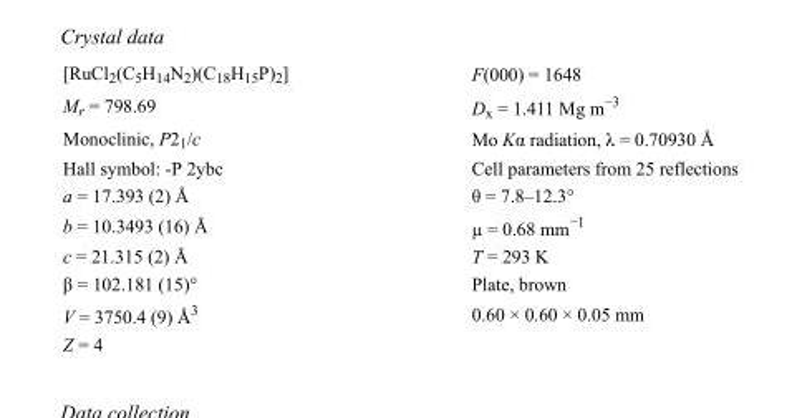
<table><tbody><tr><td>[RuCl<sub>2</sub>(C<sub>5</sub>H<sub>14</sub>N<sub>2</sub>)(C<sub>18</sub>H<sub>15</sub>P)<sub>2</sub>]</td><td>F(000) = 1648</td></tr><tr><td>M<sub>r</sub> = 798.69</td><td>D<sub>x</sub> = 1.411 Mg m<sup>−3</sup></td></tr><tr><td>Monoclinic, P2<sub>1</sub>/c</td><td>Mo Kα radiation, λ = 0.70930 Å</td></tr><tr><td>Hall symbol: -P 2ybc</td><td>Cell parameters from 25 reflections</td></tr><tr><td>a = 17.393 (2) Å</td><td>θ = 7.8–12.3°</td></tr><tr><td>b = 10.3493 (16) Å</td><td>µ = 0.68 mm<sup>−1</sup></td></tr><tr><td>c = 21.315 (2) Å</td><td>T = 293 K</td></tr><tr><td>β = 102.181 (15)°</td><td>Plate, brown</td></tr><tr><td>V = 3750.4 (9) Å<sup>3</sup></td><td>0.60 × 0.60 × 0.05 mm</td></tr><tr><td>Z = 4</td><td></td></tr></tbody></table>